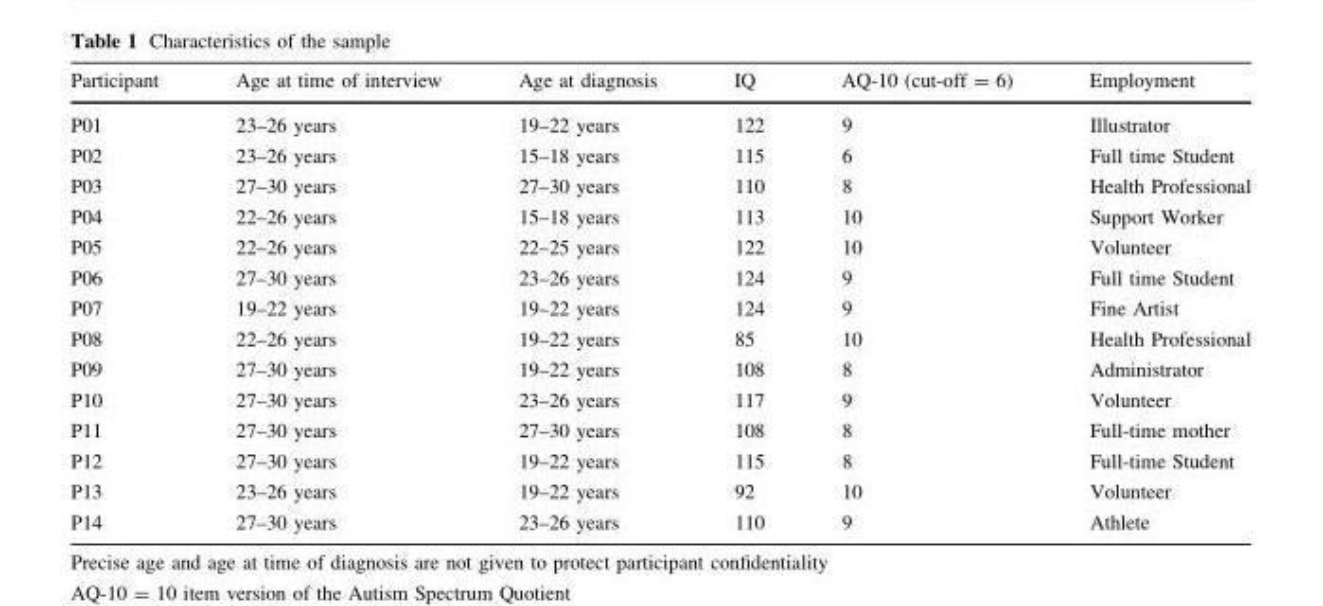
<table><thead><tr><td>Participant</td><td>Age at time of interview</td><td>Age at diagnosis</td><td>IQ</td><td>AQ-10 (cut-off = 6)</td><td>Employment</td></tr></thead><tbody><tr><td>P01</td><td>23–26 years</td><td>19–22 years</td><td>122</td><td>9</td><td>Illustrator</td></tr><tr><td>P02</td><td>23–26 years</td><td>15–18 years</td><td>115</td><td>6</td><td>Full time Student</td></tr><tr><td>P03</td><td>27–30 years</td><td>27–30 years</td><td>110</td><td>8</td><td>Health Professional</td></tr><tr><td>P04</td><td>22–26 years</td><td>15–18 years</td><td>113</td><td>10</td><td>Support Worker</td></tr><tr><td>P05</td><td>22–26 years</td><td>22–25 years</td><td>122</td><td>10</td><td>Volunteer</td></tr><tr><td>P06</td><td>27–30 years</td><td>23–26 years</td><td>124</td><td>9</td><td>Full time Student</td></tr><tr><td>P07</td><td>19–22 years</td><td>19–22 years</td><td>124</td><td>9</td><td>Fine Artist</td></tr><tr><td>P08</td><td>22–26 years</td><td>19–22 years</td><td>85</td><td>10</td><td>Health Professional</td></tr><tr><td>P09</td><td>27–30 years</td><td>19–22 years</td><td>108</td><td>8</td><td>Administrator</td></tr><tr><td>P10</td><td>27–30 years</td><td>23–26 years</td><td>117</td><td>9</td><td>Volunteer</td></tr><tr><td>P11</td><td>27–30 years</td><td>27–30 years</td><td>108</td><td>8</td><td>Full-time mother</td></tr><tr><td>P12</td><td>27–30 years</td><td>19–22 years</td><td>115</td><td>8</td><td>Full-time Student</td></tr><tr><td>P13</td><td>23–26 years</td><td>19–22 years</td><td>92</td><td>10</td><td>Volunteer</td></tr><tr><td>P14</td><td>27–30 years</td><td>23–26 years</td><td>110</td><td>9</td><td>Athlete</td></tr></tbody></table>